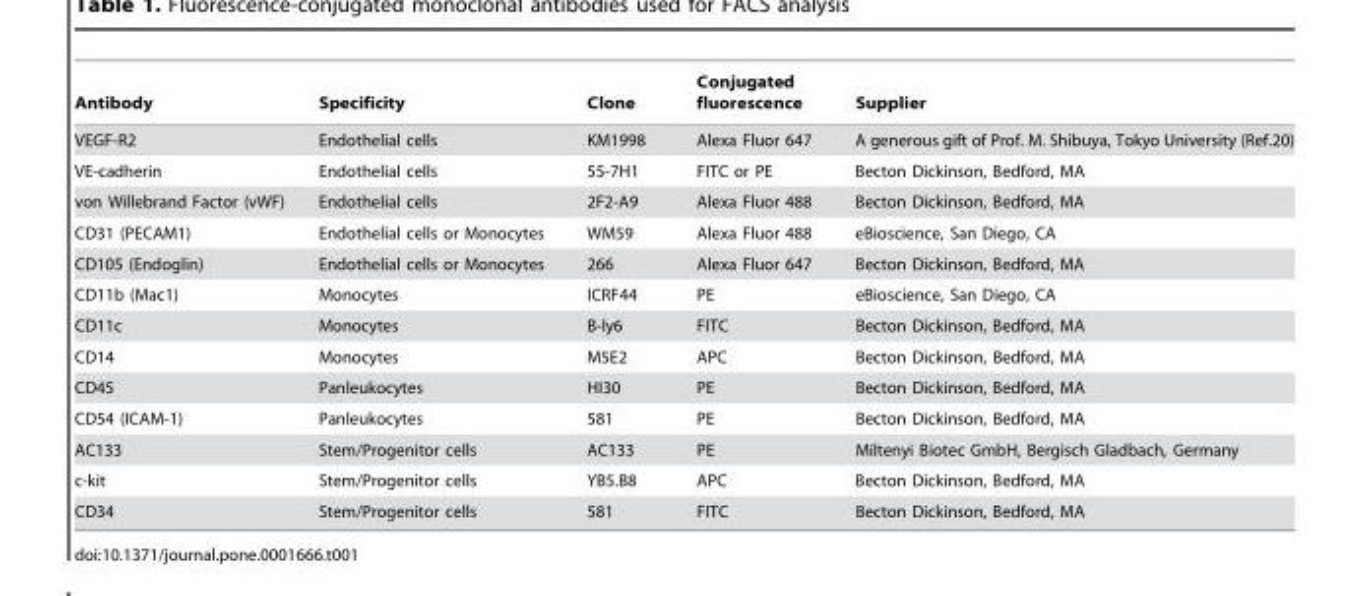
<table><thead><tr><td>Antibody</td><td>Specificity</td><td>Clone</td><td>Conjugated fluorescence</td><td>Supplier</td></tr></thead><tbody><tr><td>VEGF-R2</td><td>Endothelial cells</td><td>KM1998</td><td>Alexa Fluor 647</td><td>A generous gift of Prof. M. Shibuya, Tokyo University (Ref.20)</td></tr><tr><td>VE-cadherin</td><td>Endothelial cells</td><td>55-7H1</td><td>FITC or PE</td><td>Becton Dickinson, Bedford, MA</td></tr><tr><td>von Willebrand Factor (vWF)</td><td>Endothelial cells</td><td>2F2-A9</td><td>Alexa Fluor 488</td><td>Becton Dickinson, Bedford, MA</td></tr><tr><td>CD31 (PECAM1)</td><td>Endothelial cells or Monocytes</td><td>WM59</td><td>Alexa Fluor 488</td><td>eBioscience, San Diego, CA</td></tr><tr><td>CD105 (Endoglin)</td><td>Endothelial cells or Monocytes</td><td>266</td><td>Alexa Fluor 647</td><td>Becton Dickinson, Bedford, MA</td></tr><tr><td>CD11b (Mac1)</td><td>Monocytes</td><td>ICRF44</td><td>PE</td><td>eBioscience, San Diego, CA</td></tr><tr><td>CD11c</td><td>Monocytes</td><td>B-ly6</td><td>FITC</td><td>Becton Dickinson, Bedford, MA</td></tr><tr><td>CD14</td><td>Monocytes</td><td>M5E2</td><td>APC</td><td>Becton Dickinson, Bedford, MA</td></tr><tr><td>CD45</td><td>Panleukocytes</td><td>HI30</td><td>PE</td><td>Becton Dickinson, Bedford, MA</td></tr><tr><td>CD54 (ICAM-1)</td><td>Panleukocytes</td><td>581</td><td>PE</td><td>Becton Dickinson, Bedford, MA</td></tr><tr><td>AC133</td><td>Stem/Progenitor cells</td><td>AC133</td><td>PE</td><td>Miltenyi Biotec GmbH, Bergisch Gladbach, Germany</td></tr><tr><td>c-kit</td><td>Stem/Progenitor cells</td><td>YB5.B8</td><td>APC</td><td>Becton Dickinson, Bedford, MA</td></tr><tr><td>CD34</td><td>Stem/Progenitor cells</td><td>581</td><td>FITC</td><td>Becton Dickinson, Bedford, MA</td></tr></tbody></table>